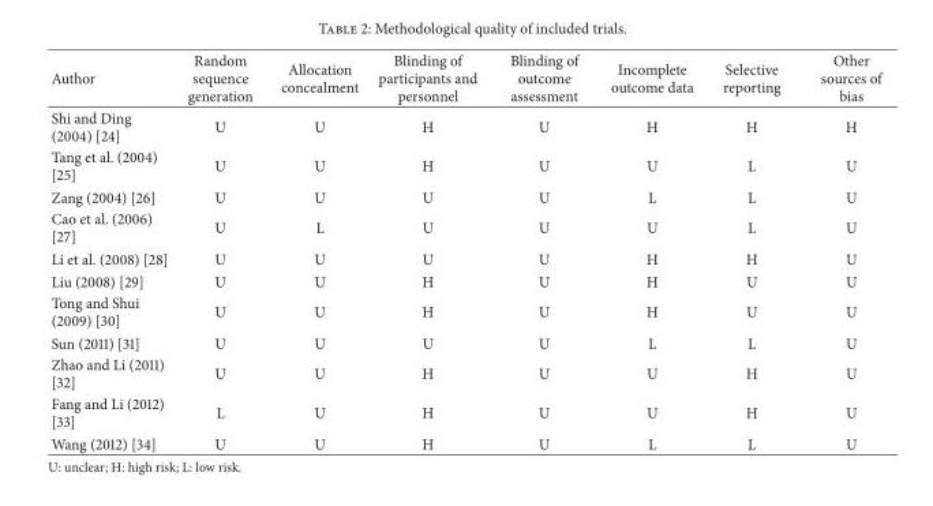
<table><thead><tr><td>Author</td><td>Random sequence generation</td><td>Allocation concealment</td><td>Blinding of participants and personnel</td><td>Blinding of outcome assessment</td><td>Incomplete outcome data</td><td>Selective reporting</td><td>Other sources of bias</td></tr></thead><tbody><tr><td>Shi and Ding (2004) [24]</td><td>U</td><td>U</td><td>H</td><td>U</td><td>H</td><td>H</td><td>H</td></tr><tr><td>Tang et al. (2004) [25]</td><td>U</td><td>U</td><td>H</td><td>U</td><td>U</td><td>L</td><td>U</td></tr><tr><td>Zang (2004) [26]</td><td>U</td><td>U</td><td>U</td><td>U</td><td>L</td><td>L</td><td>U</td></tr><tr><td>Cao et al. (2006) [27]</td><td>U</td><td>L</td><td>U</td><td>U</td><td>U</td><td>L</td><td>U</td></tr><tr><td>Li et al. (2008) [28]</td><td>U</td><td>U</td><td>U</td><td>U</td><td>H</td><td>H</td><td>U</td></tr><tr><td>Liu (2008) [29]</td><td>U</td><td>U</td><td>H</td><td>U</td><td>H</td><td>U</td><td>U</td></tr><tr><td>Tong and Shui (2009) [30]</td><td>U</td><td>U</td><td>H</td><td>U</td><td>H</td><td>U</td><td>U</td></tr><tr><td>Sun (2011) [31]</td><td>U</td><td>U</td><td>U</td><td>U</td><td>L</td><td>L</td><td>U</td></tr><tr><td>Zhao and Li (2011) [32]</td><td>U</td><td>U</td><td>H</td><td>U</td><td>U</td><td>H</td><td>U</td></tr><tr><td>Fang and Li (2012) [33]</td><td>L</td><td>U</td><td>H</td><td>U</td><td>U</td><td>H</td><td>U</td></tr><tr><td>Wang (2012) [34]</td><td>U</td><td>U</td><td>H</td><td>U</td><td>L</td><td>L</td><td>U</td></tr></tbody></table>